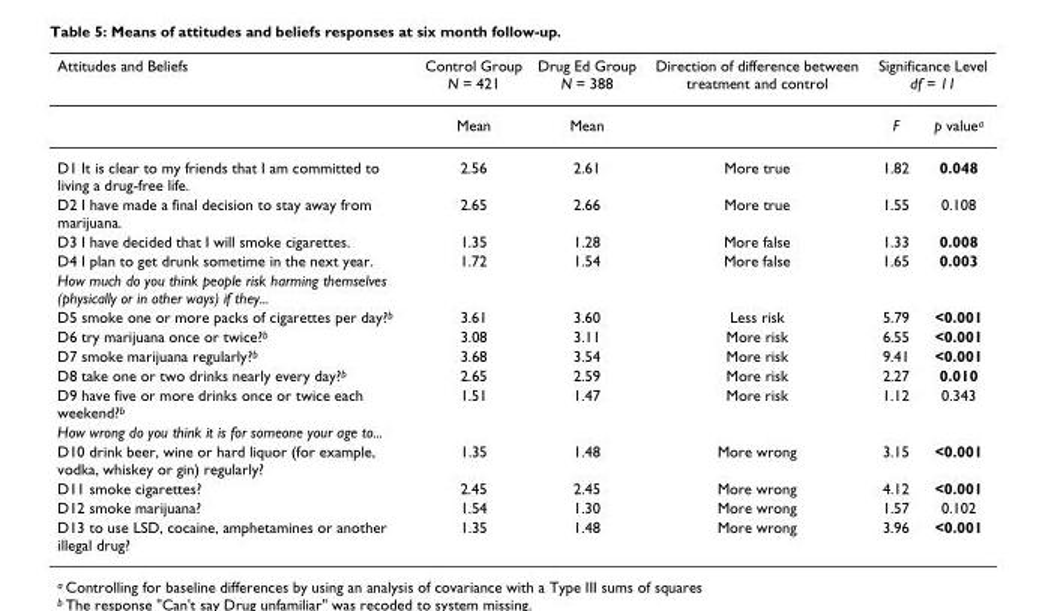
<table><thead><tr><td rowspan="2">Attitudes and Beliefs</td><td rowspan="2">Control Group N = 421 Mean</td><td rowspan="2">Drug Ed Group N = 388 Mean</td><td rowspan="2">Direction of difference between treatment and control</td><td colspan="2">Significance Level df = 11</td></tr><tr><td>F</td><td>p valuea</td></tr></thead><tbody><tr><td>D1 It is clear to my friends that I am committed to living a drug-free life.</td><td>2.56</td><td>2.61</td><td>More true</td><td>1.82</td><td>0.048</td></tr><tr><td>D2 I have made a final decision to stay away from marijuana.</td><td>2.65</td><td>2.66</td><td>More true</td><td>1.55</td><td>0.108</td></tr><tr><td>D3 I have decided that I will smoke cigarettes.</td><td>1.35</td><td>1.28</td><td>More false</td><td>1.33</td><td>0.008</td></tr><tr><td>D4 I plan to get drunk sometime in the next year.</td><td>1.72</td><td>1.54</td><td>More false</td><td>1.65</td><td>0.003</td></tr><tr><td colspan="6">How much do you think people risk harming themselves (physically or in other ways) if they...</td></tr><tr><td>D5 smoke one or more packs of cigarettes per day?<sup>b</sup></td><td>3.61</td><td>3.60</td><td>Less risk</td><td>5.79</td><td>&lt;0.001</td></tr><tr><td>D6 try marijuana once or twice?<sup>b</sup></td><td>3.08</td><td>3.11</td><td>More risk</td><td>6.55</td><td>&lt;0.001</td></tr><tr><td>D7 smoke marijuana regularly?<sup>b</sup></td><td>3.68</td><td>3.54</td><td>More risk</td><td>9.41</td><td>&lt;0.001</td></tr><tr><td>D8 take one or two drinks nearly every day?<sup>b</sup></td><td>2.65</td><td>2.59</td><td>More risk</td><td>2.27</td><td>0.010</td></tr><tr><td>D9 have five or more drinks once or twice each weekend?<sup>b</sup></td><td>1.51</td><td>1.47</td><td>More risk</td><td>1.12</td><td>0.343</td></tr><tr><td colspan="6">How wrong do you think it is for someone your age to...</td></tr><tr><td>D10 drink beer, wine or hard liquor (for example, vodka, whiskey or gin) regularly?</td><td>1.35</td><td>1.48</td><td>More wrong</td><td>3.15</td><td>&lt;0.001</td></tr><tr><td>D11 smoke cigarettes?</td><td>2.45</td><td>2.45</td><td>More wrong</td><td>4.12</td><td>&lt;0.001</td></tr><tr><td>D12 smoke marijuana?</td><td>1.54</td><td>1.30</td><td>More wrong</td><td>1.57</td><td>0.102</td></tr><tr><td>D13 to use LSD, cocaine, amphetamines or another illegal drug?</td><td>1.35</td><td>1.48</td><td>More wrong</td><td>3.96</td><td>&lt;0.001</td></tr></tbody></table>